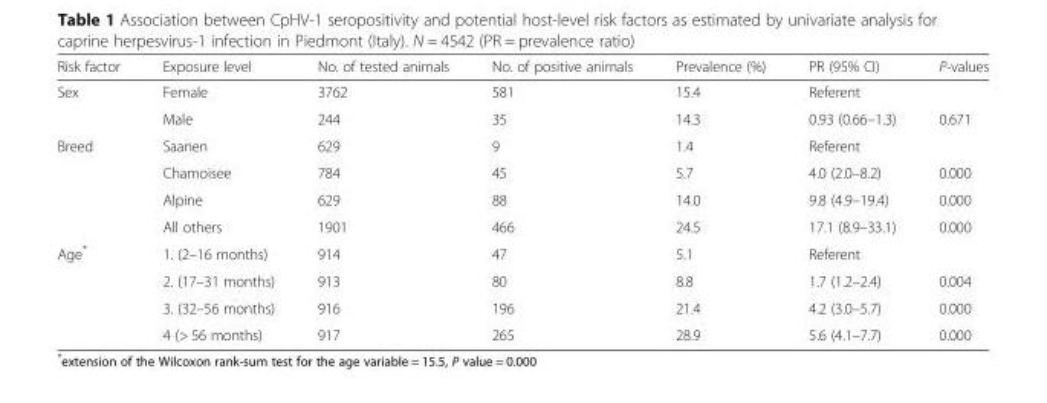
<table><thead><tr><td>Risk factor</td><td>Exposure level</td><td>No. of tested animals</td><td>No. of positive animals</td><td>Prevalence (%)</td><td>PR (95% CI)</td><td>P-values</td></tr></thead><tbody><tr><td rowspan="2">Sex</td><td>Female</td><td>3762</td><td>581</td><td>15.4</td><td>Referent</td><td></td></tr><tr><td>Male</td><td>244</td><td>35</td><td>14.3</td><td>0.93 (0.66–1.3)</td><td>0.671</td></tr><tr><td rowspan="4">Breed</td><td>Saanen</td><td>629</td><td>9</td><td>1.4</td><td>Referent</td><td></td></tr><tr><td>Chamoisee</td><td>784</td><td>45</td><td>5.7</td><td>4.0 (2.0–8.2)</td><td>0.000</td></tr><tr><td>Alpine</td><td>629</td><td>88</td><td>14.0</td><td>9.8 (4.9–19.4)</td><td>0.000</td></tr><tr><td>All others</td><td>1901</td><td>466</td><td>24.5</td><td>17.1 (8.9–33.1)</td><td>0.000</td></tr><tr><td rowspan="4">Age*</td><td>1. (2–16 months)</td><td>914</td><td>47</td><td>5.1</td><td>Referent</td><td></td></tr><tr><td>2. (17–31 months)</td><td>913</td><td>80</td><td>8.8</td><td>1.7 (1.2–2.4)</td><td>0.004</td></tr><tr><td>3. (32–56 months)</td><td>916</td><td>196</td><td>21.4</td><td>4.2 (3.0–5.7)</td><td>0.000</td></tr><tr><td>4 (&gt; 56 months)</td><td>917</td><td>265</td><td>28.9</td><td>5.6 (4.1–7.7)</td><td>0.000</td></tr></tbody></table>